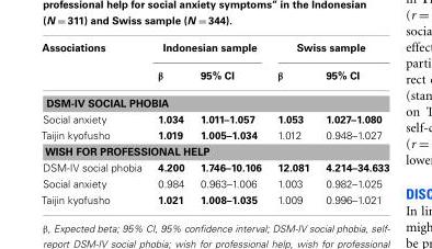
<table><thead><tr><td rowspan="2">Associations</td><td colspan="2">Indonesian sample</td><td colspan="2">Swiss sample</td></tr><tr><td>β</td><td>95% CI</td><td>β</td><td>95% CI</td></tr></thead><tbody><tr><td colspan="5">DSM-IV SOCIAL PHOBIA</td></tr><tr><td>Social anxiety</td><td>1.034</td><td>1.011–1.057</td><td>1.053</td><td>1.027–1.080</td></tr><tr><td>Taijin kyofusho</td><td>1.019</td><td>1.005–1.034</td><td>1.012</td><td>0.948–1.027</td></tr><tr><td colspan="5">WISH FOR PROFESSIONAL HELP</td></tr><tr><td>DSM-IV social phobia</td><td>4.200</td><td>1.746–10.106</td><td>12.081</td><td>4.214–34.633</td></tr><tr><td>Social anxiety</td><td>0.984</td><td>0.963–1.006</td><td>1.003</td><td>0.982–1.025</td></tr><tr><td>Taijin kyofusho</td><td>1.021</td><td>1.008–1.035</td><td>1.009</td><td>0.996–1.021</td></tr></tbody></table>